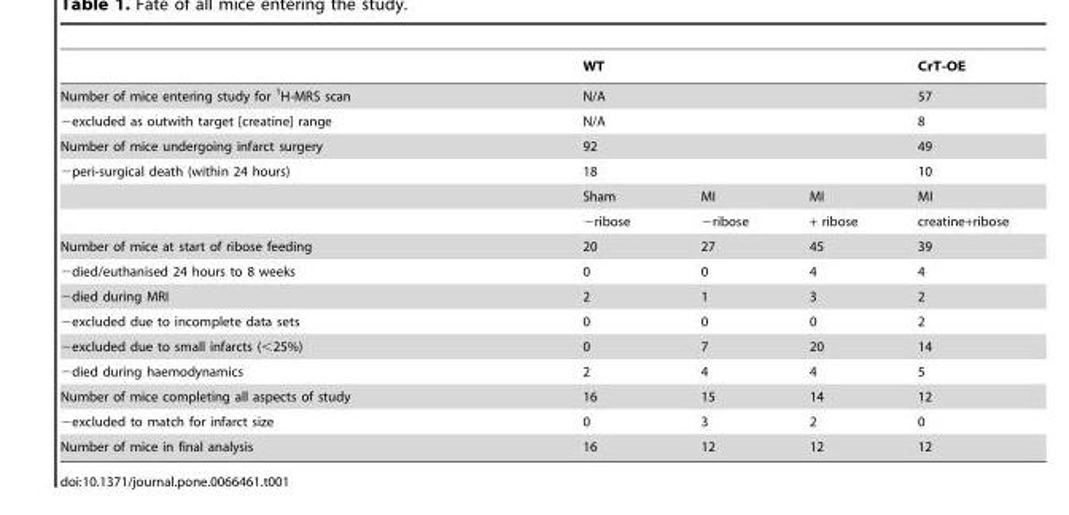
<table><thead><tr><td></td><td colspan="3">WT</td><td>CrT-OE</td></tr></thead><tbody><tr><td>Number of mice entering study for <sup>1</sup>H-MRS scan</td><td colspan="3">N/A</td><td>57</td></tr><tr><td>−excluded as outwith target [creatine] range</td><td colspan="3">N/A</td><td>8</td></tr><tr><td>Number of mice undergoing infarct surgery</td><td colspan="3">92</td><td>49</td></tr><tr><td rowspan="3">−peri-surgical death (within 24 hours)</td><td colspan="3">18</td><td>10</td></tr><tr><td>Sham</td><td>MI</td><td>MI</td><td>MI</td></tr><tr><td>−ribose</td><td>−ribose</td><td>+ ribose</td><td>creatine+ribose</td></tr><tr><td>Number of mice at start of ribose feeding</td><td>20</td><td>27</td><td>45</td><td>39</td></tr><tr><td>−died/euthanised 24 hours to 8 weeks</td><td>0</td><td>0</td><td>4</td><td>4</td></tr><tr><td>−died during MRI</td><td>2</td><td>1</td><td>3</td><td>2</td></tr><tr><td>−excluded due to incomplete data sets</td><td>0</td><td>0</td><td>0</td><td>2</td></tr><tr><td>−excluded due to small infarcts (&lt;25%)</td><td>0</td><td>7</td><td>20</td><td>14</td></tr><tr><td>−died during haemodynamics</td><td>2</td><td>4</td><td>4</td><td>5</td></tr><tr><td>Number of mice completing all aspects of study</td><td>16</td><td>15</td><td>14</td><td>12</td></tr><tr><td>−excluded to match for infarct size</td><td>0</td><td>3</td><td>2</td><td>0</td></tr><tr><td>Number of mice in final analysis</td><td>16</td><td>12</td><td>12</td><td>12</td></tr></tbody></table>